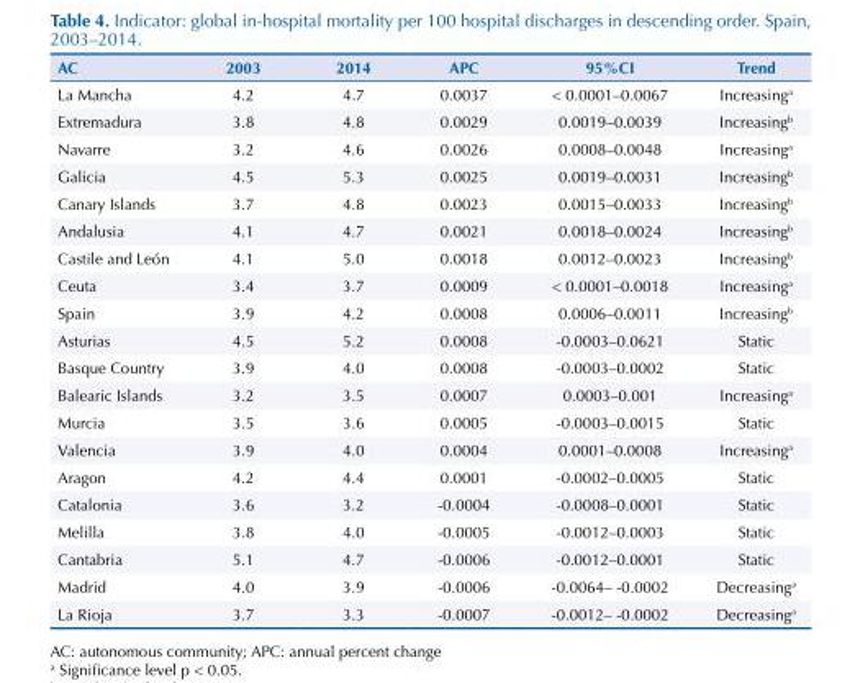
<table><thead><tr><td>AC</td><td>2003</td><td>2014</td><td>APC</td><td>95%CI</td><td>Trend</td></tr></thead><tbody><tr><td>La Mancha</td><td>4.2</td><td>4.7</td><td>0.0037</td><td>&lt; 0.0001–0.0067</td><td>Increasing<sup>a</sup></td></tr><tr><td>Extremadura</td><td>3.8</td><td>4.8</td><td>0.0029</td><td>0.0019–0.0039</td><td>Increasing<sup>b</sup></td></tr><tr><td>Navarre</td><td>3.2</td><td>4.6</td><td>0.0026</td><td>0.0008–0.0048</td><td>Increasing<sup>a</sup></td></tr><tr><td>Galicia</td><td>4.5</td><td>5.3</td><td>0.0025</td><td>0.0019–0.0031</td><td>Increasing<sup>b</sup></td></tr><tr><td>Canary Islands</td><td>3.7</td><td>4.8</td><td>0.0023</td><td>0.0015–0.0033</td><td>Increasing<sup>b</sup></td></tr><tr><td>Andalusia</td><td>4.1</td><td>4.7</td><td>0.0021</td><td>0.0018–0.0024</td><td>Increasing<sup>b</sup></td></tr><tr><td>Castile and León</td><td>4.1</td><td>5.0</td><td>0.0018</td><td>0.0012–0.0023</td><td>Increasing<sup>b</sup></td></tr><tr><td>Ceuta</td><td>3.4</td><td>3.7</td><td>0.0009</td><td>&lt; 0.0001–0.0018</td><td>Increasing<sup>a</sup></td></tr><tr><td>Spain</td><td>3.9</td><td>4.2</td><td>0.0008</td><td>0.0006–0.0011</td><td>Increasing<sup>b</sup></td></tr><tr><td>Asturias</td><td>4.5</td><td>5.2</td><td>0.0008</td><td>-0.0003–0.0621</td><td>Static</td></tr><tr><td>Basque Country</td><td>3.9</td><td>4.0</td><td>0.0008</td><td>-0.0003–0.0002</td><td>Static</td></tr><tr><td>Balearic Islands</td><td>3.2</td><td>3.5</td><td>0.0007</td><td>0.0003–0.001</td><td>Increasing<sup>a</sup></td></tr><tr><td>Murcia</td><td>3.5</td><td>3.6</td><td>0.0005</td><td>-0.0003–0.0015</td><td>Static</td></tr><tr><td>Valencia</td><td>3.9</td><td>4.0</td><td>0.0004</td><td>0.0001–0.0008</td><td>Increasing<sup>a</sup></td></tr><tr><td>Aragon</td><td>4.2</td><td>4.4</td><td>0.0001</td><td>-0.0002–0.0005</td><td>Static</td></tr><tr><td>Catalonia</td><td>3.6</td><td>3.2</td><td>-0.0004</td><td>-0.0008–0.0001</td><td>Static</td></tr><tr><td>Melilla</td><td>3.8</td><td>4.0</td><td>-0.0005</td><td>-0.0012–0.0003</td><td>Static</td></tr><tr><td>Cantabria</td><td>5.1</td><td>4.7</td><td>-0.0006</td><td>-0.0012–0.0001</td><td>Static</td></tr><tr><td>Madrid</td><td>4.0</td><td>3.9</td><td>-0.0006</td><td>-0.0064– -0.0002</td><td>Decreasing<sup>a</sup></td></tr><tr><td>La Rioja</td><td>3.7</td><td>3.3</td><td>-0.0007</td><td>-0.0012– -0.0002</td><td>Decreasing<sup>a</sup></td></tr></tbody></table>